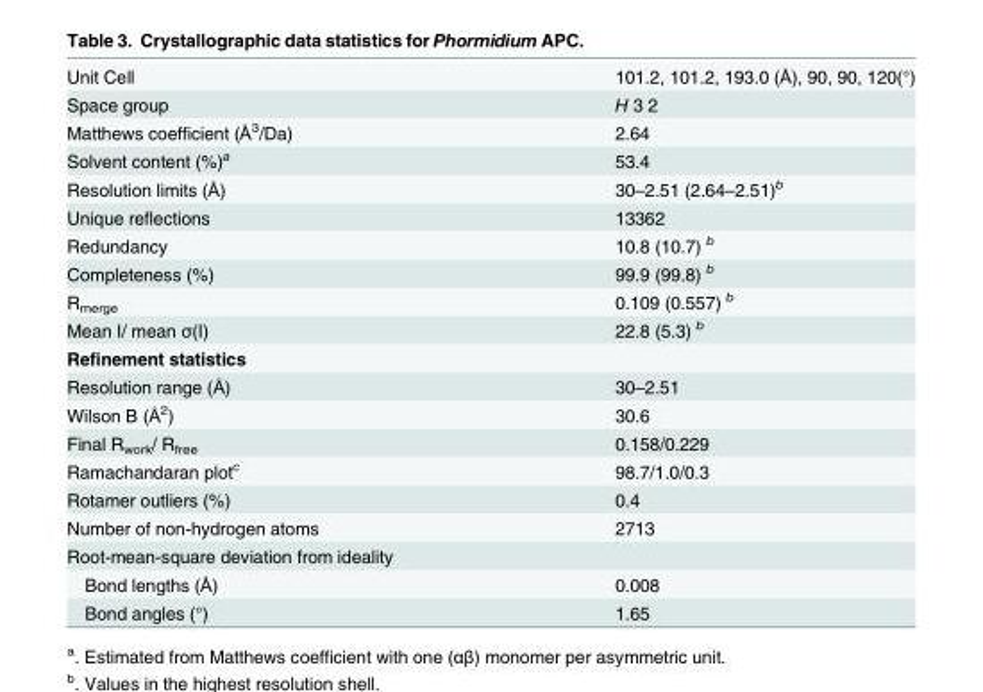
<table><tbody><tr><td>Unit Cell</td><td>101.2, 101.2, 193.0 (Å), 90, 90, 120(°)</td></tr><tr><td>Space group</td><td>H 3 2</td></tr><tr><td>Matthews coefficient (Å<sup>3</sup>/Da)</td><td>2.64</td></tr><tr><td>Solvent content (%)<sup>a</sup></td><td>53.4</td></tr><tr><td>Resolution limits (Å)</td><td>30–2.51 (2.64–2.51)<sup>b</sup></td></tr><tr><td>Unique reflections</td><td>13362</td></tr><tr><td>Redundancy</td><td>10.8 (10.7) <sup>b</sup></td></tr><tr><td>Completeness (%)</td><td>99.9 (99.8) <sup>b</sup></td></tr><tr><td>R<sub>merge</sub></td><td>0.109 (0.557) <sup>b</sup></td></tr><tr><td>Mean I/ mean σ(I)</td><td>22.8 (5.3) <sup>b</sup></td></tr><tr><td colspan="2">Refinement statistics</td></tr><tr><td>Resolution range (Å)</td><td>30–2.51</td></tr><tr><td>Wilson B (Å<sup>2</sup>)</td><td>30.6</td></tr><tr><td>Final R<sub>work</sub>/ R<sub>free</sub></td><td>0.158/0.229</td></tr><tr><td>Ramachandaran plot<sup>c</sup></td><td>98.7/1.0/0.3</td></tr><tr><td>Rotamer outliers (%)</td><td>0.4</td></tr><tr><td>Number of non-hydrogen atoms</td><td>2713</td></tr><tr><td colspan="2">Root-mean-square deviation from ideality</td></tr><tr><td>Bond lengths (Å)</td><td>0.008</td></tr><tr><td>Bond angles (°)</td><td>1.65</td></tr></tbody></table>